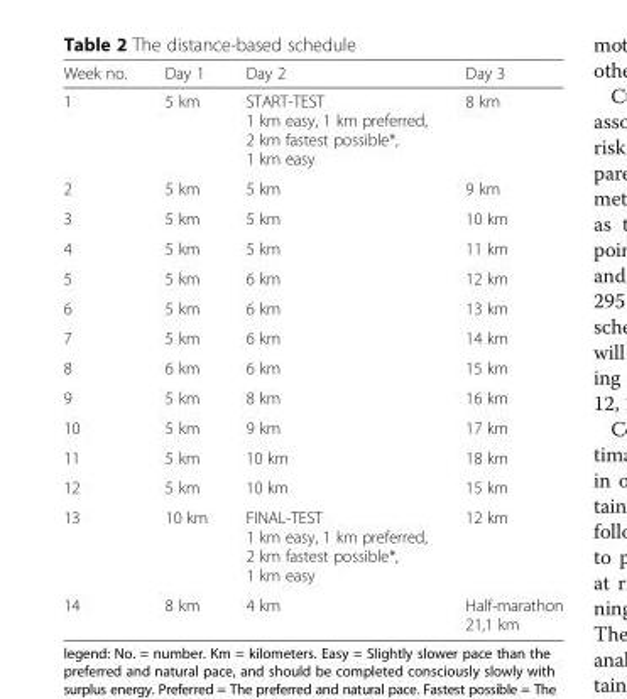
<table><thead><tr><td>Week no.</td><td>Day 1</td><td>Day 2</td><td>Day 3</td></tr></thead><tbody><tr><td>1</td><td>5 km</td><td>START-TEST 1 km easy, 1 km preferred, 2 km fastest possible*, 1 km easy</td><td>8 km</td></tr><tr><td>2</td><td>5 km</td><td>5 km</td><td>9 km</td></tr><tr><td>3</td><td>5 km</td><td>5 km</td><td>10 km</td></tr><tr><td>4</td><td>5 km</td><td>5 km</td><td>11 km</td></tr><tr><td>5</td><td>5 km</td><td>6 km</td><td>12 km</td></tr><tr><td>6</td><td>5 km</td><td>6 km</td><td>13 km</td></tr><tr><td>7</td><td>5 km</td><td>6 km</td><td>14 km</td></tr><tr><td>8</td><td>6 km</td><td>6 km</td><td>15 km</td></tr><tr><td>9</td><td>5 km</td><td>8 km</td><td>16 km</td></tr><tr><td>10</td><td>5 km</td><td>9 km</td><td>17 km</td></tr><tr><td>11</td><td>5 km</td><td>10 km</td><td>18 km</td></tr><tr><td>12</td><td>5 km</td><td>10 km</td><td>15 km</td></tr><tr><td>13</td><td>10 km</td><td>FINAL-TEST 1 km easy, 1 km preferred, 2 km fastest possible*, 1 km easy</td><td>12 km</td></tr><tr><td>14</td><td>8 km</td><td>4 km</td><td>Half-marathon 21,1 km</td></tr></tbody></table>